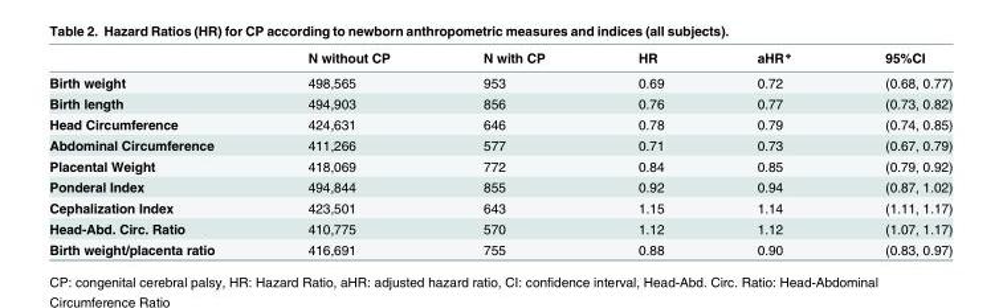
<table><thead><tr><td></td><td>N without CP</td><td>N with CP</td><td>HR</td><td>aHR*</td><td>95%CI</td></tr></thead><tbody><tr><td>Birth weight</td><td>498,565</td><td>953</td><td>0.69</td><td>0.72</td><td>(0.68, 0.77)</td></tr><tr><td>Birth length</td><td>494,903</td><td>856</td><td>0.76</td><td>0.77</td><td>(0.73, 0.82)</td></tr><tr><td>Head Circumference</td><td>424,631</td><td>646</td><td>0.78</td><td>0.79</td><td>(0.74, 0.85)</td></tr><tr><td>Abdominal Circumference</td><td>411,266</td><td>577</td><td>0.71</td><td>0.73</td><td>(0.67, 0.79)</td></tr><tr><td>Placental Weight</td><td>418,069</td><td>772</td><td>0.84</td><td>0.85</td><td>(0.79, 0.92)</td></tr><tr><td>Ponderal Index</td><td>494,844</td><td>855</td><td>0.92</td><td>0.94</td><td>(0.87, 1.02)</td></tr><tr><td>Cephalization Index</td><td>423,501</td><td>643</td><td>1.15</td><td>1.14</td><td>(1.11, 1.17)</td></tr><tr><td>Head-Abd. Circ. Ratio</td><td>410,775</td><td>570</td><td>1.12</td><td>1.12</td><td>(1.07, 1.17)</td></tr><tr><td>Birth weight/placenta ratio</td><td>416,691</td><td>755</td><td>0.88</td><td>0.90</td><td>(0.83, 0.97)</td></tr></tbody></table>